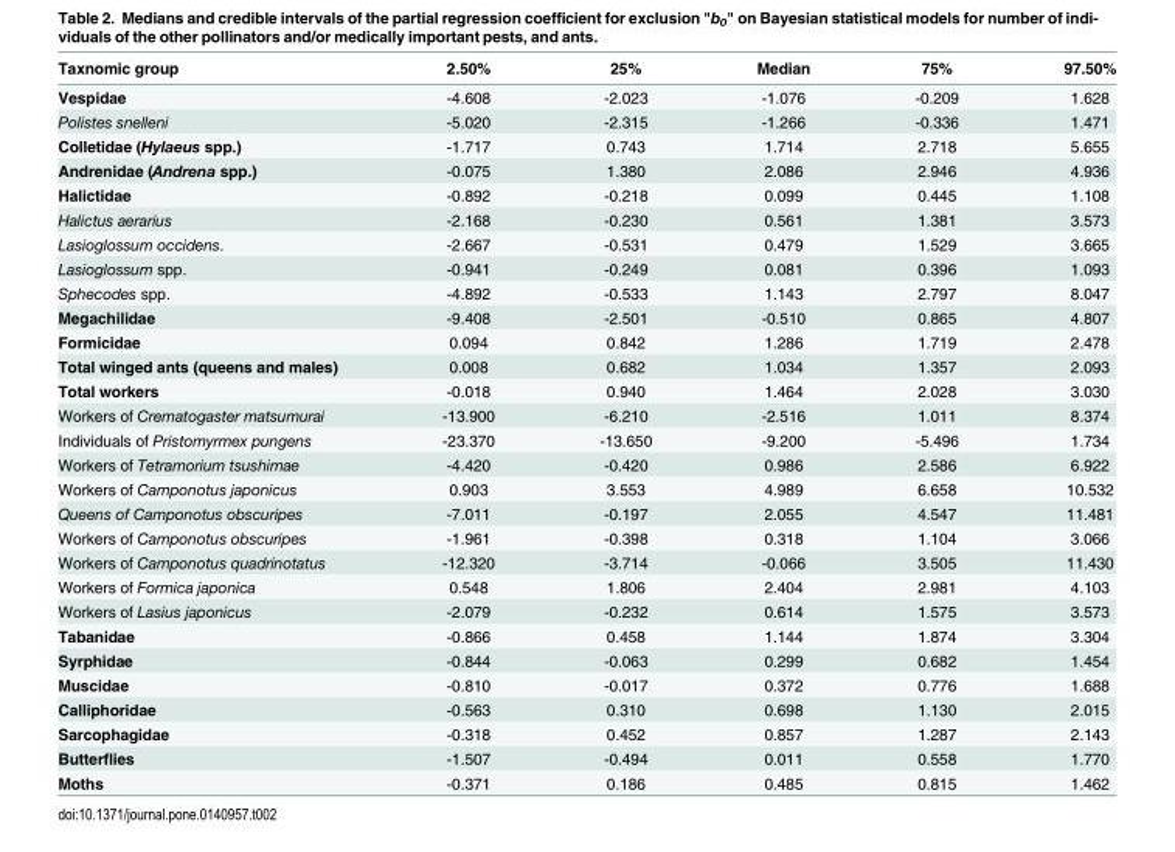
<table><thead><tr><td>Taxnomic group</td><td>2.50%</td><td>25%</td><td>Median</td><td>75%</td><td>97.50%</td></tr></thead><tbody><tr><td>Vespidae</td><td>-4.608</td><td>-2.023</td><td>-1.076</td><td>-0.209</td><td>1.628</td></tr><tr><td>Polistes snelleni</td><td>-5.020</td><td>-2.315</td><td>-1.266</td><td>-0.336</td><td>1.471</td></tr><tr><td>Colletidae (Hylaeus spp.)</td><td>-1.717</td><td>0.743</td><td>1.714</td><td>2.718</td><td>5.655</td></tr><tr><td>Andrenidae (Andrena spp.)</td><td>-0.075</td><td>1.380</td><td>2.086</td><td>2.946</td><td>4.936</td></tr><tr><td>Halictidae</td><td>-0.892</td><td>-0.218</td><td>0.099</td><td>0.445</td><td>1.108</td></tr><tr><td>Halictus aerarius</td><td>-2.168</td><td>-0.230</td><td>0.561</td><td>1.381</td><td>3.573</td></tr><tr><td>Lasioglossum occidens.</td><td>-2.667</td><td>-0.531</td><td>0.479</td><td>1.529</td><td>3.665</td></tr><tr><td>Lasioglossum spp.</td><td>-0.941</td><td>-0.249</td><td>0.081</td><td>0.396</td><td>1.093</td></tr><tr><td>Sphecodes spp.</td><td>-4.892</td><td>-0.533</td><td>1.143</td><td>2.797</td><td>8.047</td></tr><tr><td>Megachilidae</td><td>-9.408</td><td>-2.501</td><td>-0.510</td><td>0.865</td><td>4.807</td></tr><tr><td>Formicidae</td><td>0.094</td><td>0.842</td><td>1.286</td><td>1.719</td><td>2.478</td></tr><tr><td>Total winged ants (queens and males)</td><td>0.008</td><td>0.682</td><td>1.034</td><td>1.357</td><td>2.093</td></tr><tr><td>Total workers</td><td>-0.018</td><td>0.940</td><td>1.464</td><td>2.028</td><td>3.030</td></tr><tr><td>Workers of Crematogaster matsumurai</td><td>-13.900</td><td>-6.210</td><td>-2.516</td><td>1.011</td><td>8.374</td></tr><tr><td>Individuals of Pristomyrmex pungens</td><td>-23.370</td><td>-13.650</td><td>-9.200</td><td>-5.496</td><td>1.734</td></tr><tr><td>Workers of Tetramorium tsushimae</td><td>-4.420</td><td>-0.420</td><td>0.986</td><td>2.586</td><td>6.922</td></tr><tr><td>Workers of Camponotus japonicus</td><td>0.903</td><td>3.553</td><td>4.989</td><td>6.658</td><td>10.532</td></tr><tr><td>Queens of Camponotus obscuripes</td><td>-7.011</td><td>-0.197</td><td>2.055</td><td>4.547</td><td>11.481</td></tr><tr><td>Workers of Camponotus obscuripes</td><td>-1.961</td><td>-0.398</td><td>0.318</td><td>1.104</td><td>3.066</td></tr><tr><td>Workers of Camponotus quadrinotatus</td><td>-12.320</td><td>-3.714</td><td>-0.066</td><td>3.505</td><td>11.430</td></tr><tr><td>Workers of Formica japonica</td><td>0.548</td><td>1.806</td><td>2.404</td><td>2.981</td><td>4.103</td></tr><tr><td>Workers of Lasius japonicus</td><td>-2.079</td><td>-0.232</td><td>0.614</td><td>1.575</td><td>3.573</td></tr><tr><td>Tabanidae</td><td>-0.866</td><td>0.458</td><td>1.144</td><td>1.874</td><td>3.304</td></tr><tr><td>Syrphidae</td><td>-0.844</td><td>-0.063</td><td>0.299</td><td>0.682</td><td>1.454</td></tr><tr><td>Muscidae</td><td>-0.810</td><td>-0.017</td><td>0.372</td><td>0.776</td><td>1.688</td></tr><tr><td>Calliphoridae</td><td>-0.563</td><td>0.310</td><td>0.698</td><td>1.130</td><td>2.015</td></tr><tr><td>Sarcophagidae</td><td>-0.318</td><td>0.452</td><td>0.857</td><td>1.287</td><td>2.143</td></tr><tr><td>Butterflies</td><td>-1.507</td><td>-0.494</td><td>0.011</td><td>0.558</td><td>1.770</td></tr><tr><td>Moths</td><td>-0.371</td><td>0.186</td><td>0.485</td><td>0.815</td><td>1.462</td></tr></tbody></table>